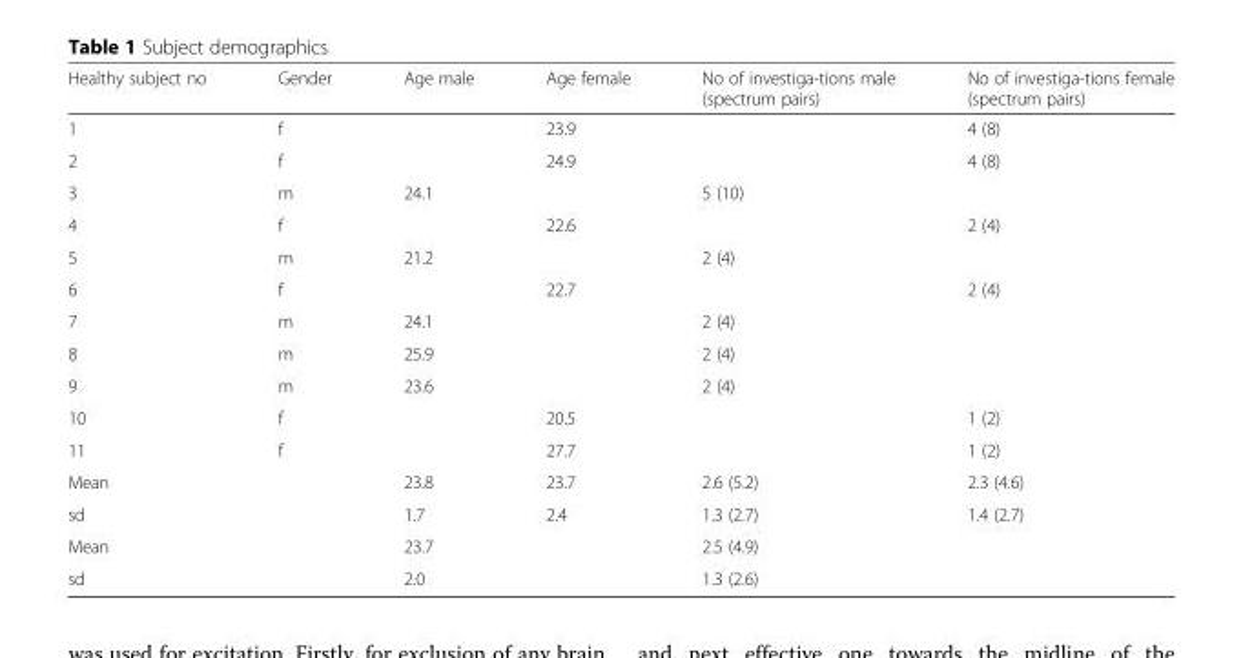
<table><thead><tr><td>Healthy subject no</td><td>Gender</td><td>Age male</td><td>Age female</td><td>No of investiga-tions male (spectrum pairs)</td><td>No of investiga-tions female (spectrum pairs)</td></tr></thead><tbody><tr><td>1</td><td>f</td><td></td><td>23.9</td><td></td><td>4 (8)</td></tr><tr><td>2</td><td>f</td><td></td><td>24.9</td><td></td><td>4 (8)</td></tr><tr><td>3</td><td>m</td><td>24.1</td><td></td><td>5 (10)</td><td></td></tr><tr><td>4</td><td>f</td><td></td><td>22.6</td><td></td><td>2 (4)</td></tr><tr><td>5</td><td>m</td><td>21.2</td><td></td><td>2 (4)</td><td></td></tr><tr><td>6</td><td>f</td><td></td><td>22.7</td><td></td><td>2 (4)</td></tr><tr><td>7</td><td>m</td><td>24.1</td><td></td><td>2 (4)</td><td></td></tr><tr><td>8</td><td>m</td><td>25.9</td><td></td><td>2 (4)</td><td></td></tr><tr><td>9</td><td>m</td><td>23.6</td><td></td><td>2 (4)</td><td></td></tr><tr><td>10</td><td>f</td><td></td><td>20.5</td><td></td><td>1 (2)</td></tr><tr><td>11</td><td>f</td><td></td><td>27.7</td><td></td><td>1 (2)</td></tr><tr><td>Mean</td><td></td><td>23.8</td><td>23.7</td><td>2.6 (5.2)</td><td>2.3 (4.6)</td></tr><tr><td>sd</td><td></td><td>1.7</td><td>2.4</td><td>1.3 (2.7)</td><td>1.4 (2.7)</td></tr><tr><td>Mean</td><td></td><td colspan="2">23.7</td><td colspan="2">2.5 (4.9)</td></tr><tr><td>sd</td><td></td><td colspan="2">2.0</td><td colspan="2">1.3 (2.6)</td></tr></tbody></table>